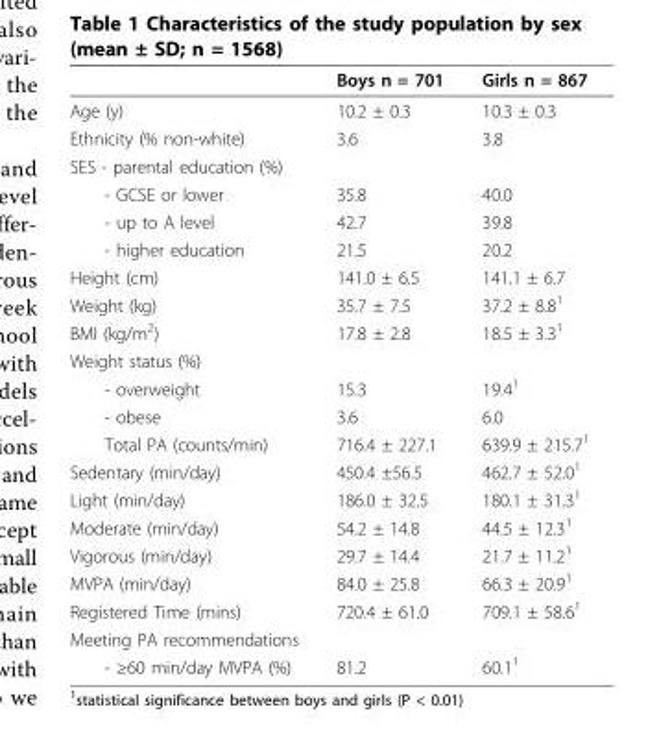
<table><thead><tr><td></td><td>Boys n = 701</td><td>Girls n = 867</td></tr></thead><tbody><tr><td>Age (y)</td><td>10.2 ± 0.3</td><td>10.3 ± 0.3</td></tr><tr><td>Ethnicity (% non-white)</td><td>3.6</td><td>3.8</td></tr><tr><td colspan="3">SES - parental education (%)</td></tr><tr><td>- GCSE or lower</td><td>35.8</td><td>40.0</td></tr><tr><td>- up to A level</td><td>42.7</td><td>39.8</td></tr><tr><td>- higher education</td><td>21.5</td><td>20.2</td></tr><tr><td>Height (cm)</td><td>141.0 ± 6.5</td><td>141.1 ± 6.7</td></tr><tr><td>Weight (kg)</td><td>35.7 ± 7.5</td><td>37.2 ± 8.8<sup>1</sup></td></tr><tr><td>BMI (kg/m<sup>2</sup>)</td><td>17.8 ± 2.8</td><td>18.5 ± 3.3<sup>1</sup></td></tr><tr><td colspan="3">Weight status (%)</td></tr><tr><td>- overweight</td><td>15.3</td><td>19.4<sup>1</sup></td></tr><tr><td>- obese</td><td>3.6</td><td>6.0</td></tr><tr><td>Total PA (counts/min)</td><td>716.4 ± 227.1</td><td>639.9 ± 215.7<sup>1</sup></td></tr><tr><td>Sedentary (min/day)</td><td>450.4 ±56.5</td><td>462.7 ± 52.0<sup>1</sup></td></tr><tr><td>Light (min/day)</td><td>186.0 ± 32.5</td><td>180.1 ± 31.3<sup>1</sup></td></tr><tr><td>Moderate (min/day)</td><td>54.2 ± 14.8</td><td>44.5 ± 12.3<sup>1</sup></td></tr><tr><td>Vigorous (min/day)</td><td>29.7 ± 14.4</td><td>21.7 ± 11.2<sup>1</sup></td></tr><tr><td>MVPA (min/day)</td><td>84.0 ± 25.8</td><td>66.3 ± 20.9<sup>1</sup></td></tr><tr><td>Registered Time (mins)</td><td>720.4 ± 61.0</td><td>709.1 ± 58.6<sup>1</sup></td></tr><tr><td colspan="3">Meeting PA recommendations</td></tr><tr><td>- ≥60 min/day MVPA (%)</td><td>81.2</td><td>60.1<sup>1</sup></td></tr></tbody></table>